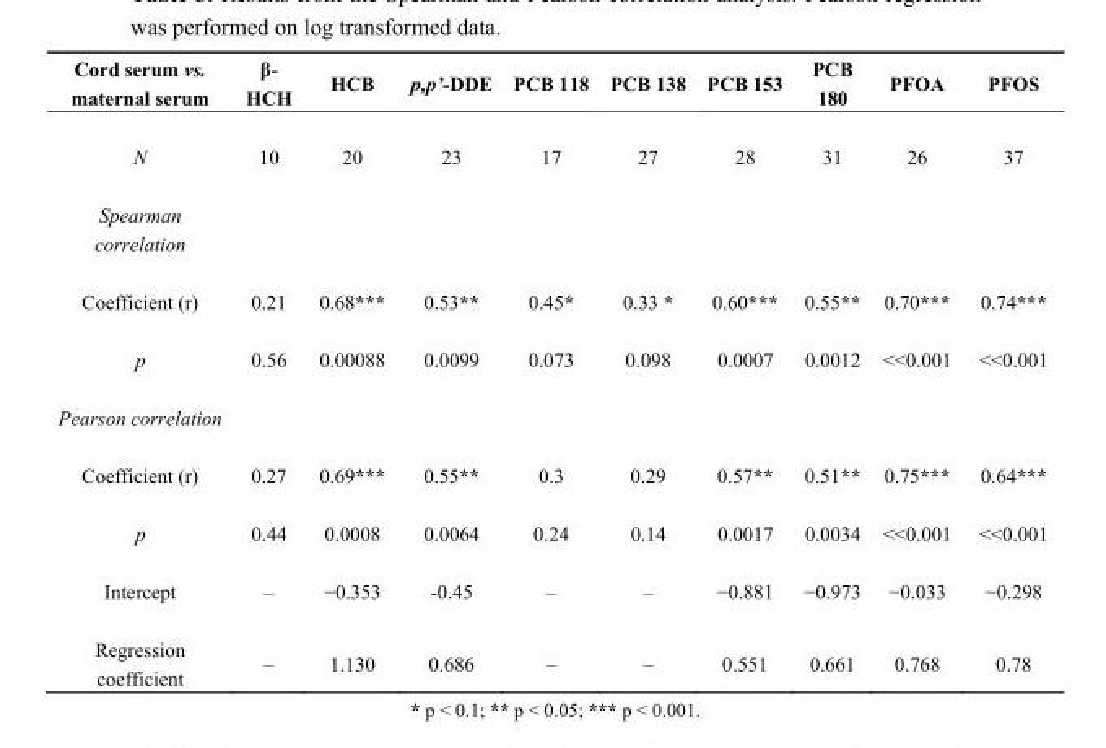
<table><thead><tr><td>Cord serum vs. maternal serum</td><td>β- HCH</td><td>HCB</td><td>p,p’-DDE</td><td>PCB 118</td><td>PCB 138</td><td>PCB 153</td><td>PCB 180</td><td>PFOA</td><td>PFOS</td></tr></thead><tbody><tr><td>N</td><td>10</td><td>20</td><td>23</td><td>17</td><td>27</td><td>28</td><td>31</td><td>26</td><td>37</td></tr><tr><td colspan="10">Spearman correlation</td></tr><tr><td>Coefficient (r)</td><td>0.21</td><td>0.68***</td><td>0.53**</td><td>0.45*</td><td>0.33 *</td><td>0.60***</td><td>0.55**</td><td>0.70***</td><td>0.74***</td></tr><tr><td>p</td><td>0.56</td><td>0.00088</td><td>0.0099</td><td>0.073</td><td>0.098</td><td>0.0007</td><td>0.0012</td><td>&lt;&lt;0.001</td><td>&lt;&lt;0.001</td></tr><tr><td colspan="10">Pearson correlation</td></tr><tr><td>Coefficient (r)</td><td>0.27</td><td>0.69***</td><td>0.55**</td><td>0.3</td><td>0.29</td><td>0.57**</td><td>0.51**</td><td>0.75***</td><td>0.64***</td></tr><tr><td>p</td><td>0.44</td><td>0.0008</td><td>0.0064</td><td>0.24</td><td>0.14</td><td>0.0017</td><td>0.0034</td><td>&lt;&lt;0.001</td><td>&lt;&lt;0.001</td></tr><tr><td>Intercept</td><td>–</td><td>−0.353</td><td>-0.45</td><td>–</td><td>–</td><td>−0.881</td><td>−0.973</td><td>−0.033</td><td>−0.298</td></tr><tr><td>Regression coefficient</td><td>–</td><td>1.130</td><td>0.686</td><td>–</td><td>–</td><td>0.551</td><td>0.661</td><td>0.768</td><td>0.78</td></tr></tbody></table>